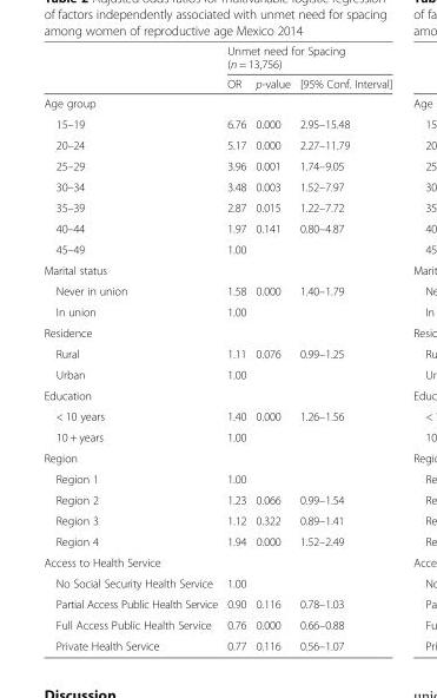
<table><thead><tr><td rowspan="2"></td><td colspan="3">Unmet need for Spacing (n = 13,756)</td></tr><tr><td>OR</td><td>p-value</td><td>[95% Conf. Interval]</td></tr></thead><tbody><tr><td colspan="4">Age group</td></tr><tr><td>15–19</td><td>6.76</td><td>0.000</td><td>2.95–15.48</td></tr><tr><td>20–24</td><td>5.17</td><td>0.000</td><td>2.27–11.79</td></tr><tr><td>25–29</td><td>3.96</td><td>0.001</td><td>1.74–9.05</td></tr><tr><td>30–34</td><td>3.48</td><td>0.003</td><td>1.52–7.97</td></tr><tr><td>35–39</td><td>2.87</td><td>0.015</td><td>1.22–7.72</td></tr><tr><td>40–44</td><td>1.97</td><td>0.141</td><td>0.80–4.87</td></tr><tr><td>45–49</td><td>1.00</td><td></td><td></td></tr><tr><td colspan="4">Marital status</td></tr><tr><td>Never in union</td><td>1.58</td><td>0.000</td><td>1.40–1.79</td></tr><tr><td>In union</td><td>1.00</td><td></td><td></td></tr><tr><td colspan="4">Residence</td></tr><tr><td>Rural</td><td>1.11</td><td>0.076</td><td>0.99–1.25</td></tr><tr><td>Urban</td><td>1.00</td><td></td><td></td></tr><tr><td colspan="4">Education</td></tr><tr><td>&lt; 10 years</td><td>1.40</td><td>0.000</td><td>1.26–1.56</td></tr><tr><td>10 + years</td><td>1.00</td><td></td><td></td></tr><tr><td colspan="4">Region</td></tr><tr><td>Region 1</td><td>1.00</td><td></td><td></td></tr><tr><td>Region 2</td><td>1.23</td><td>0.066</td><td>0.99–1.54</td></tr><tr><td>Region 3</td><td>1.12</td><td>0.322</td><td>0.89–1.41</td></tr><tr><td>Region 4</td><td>1.94</td><td>0.000</td><td>1.52–2.49</td></tr><tr><td colspan="4">Access to Health Service</td></tr><tr><td>No Social Security Health Service</td><td>1.00</td><td></td><td></td></tr><tr><td>Partial Access Public Health Service</td><td>0.90</td><td>0.116</td><td>0.78–1.03</td></tr><tr><td>Full Access Public Health Service</td><td>0.76</td><td>0.000</td><td>0.66–0.88</td></tr><tr><td>Private Health Service</td><td>0.77</td><td>0.116</td><td>0.56–1.07</td></tr></tbody></table>